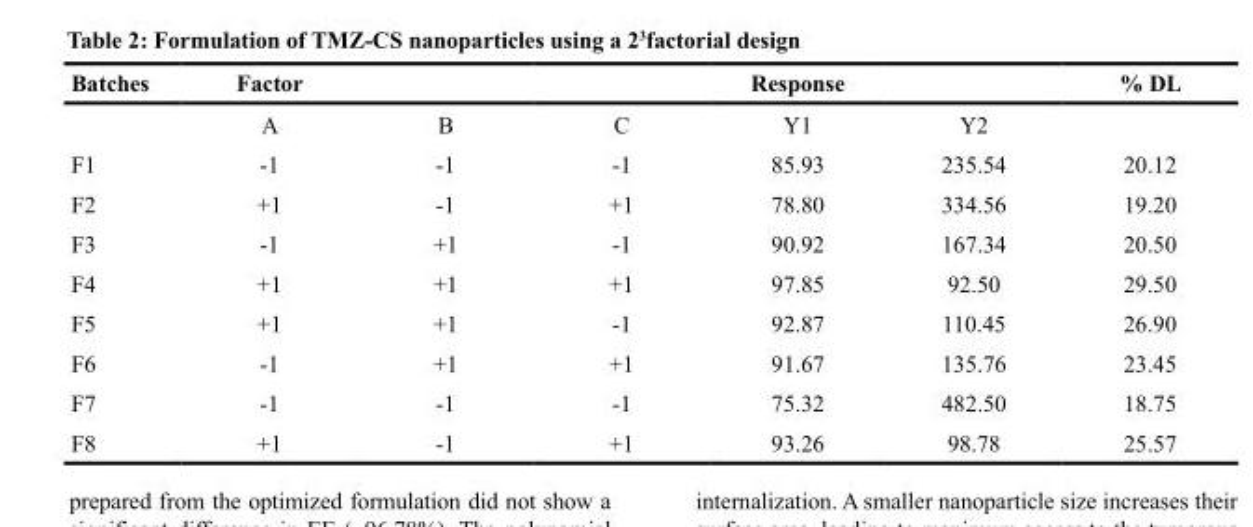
<table><thead><tr><td>Batches</td><td>Factor</td><td></td><td></td><td>Response</td><td></td><td>% DL</td></tr></thead><tbody><tr><td></td><td>A</td><td>B</td><td>C</td><td>Y1</td><td>Y2</td><td></td></tr><tr><td>F1</td><td>-1</td><td>-1</td><td>-1</td><td>85.93</td><td>235.54</td><td>20.12</td></tr><tr><td>F2</td><td>+1</td><td>-1</td><td>+1</td><td>78.80</td><td>334.56</td><td>19.20</td></tr><tr><td>F3</td><td>-1</td><td>+1</td><td>-1</td><td>90.92</td><td>167.34</td><td>20.50</td></tr><tr><td>F4</td><td>+1</td><td>+1</td><td>+1</td><td>97.85</td><td>92.50</td><td>29.50</td></tr><tr><td>F5</td><td>+1</td><td>+1</td><td>-1</td><td>92.87</td><td>110.45</td><td>26.90</td></tr><tr><td>F6</td><td>-1</td><td>+1</td><td>+1</td><td>91.67</td><td>135.76</td><td>23.45</td></tr><tr><td>F7</td><td>-1</td><td>-1</td><td>-1</td><td>75.32</td><td>482.50</td><td>18.75</td></tr><tr><td>F8</td><td>+1</td><td>-1</td><td>+1</td><td>93.26</td><td>98.78</td><td>25.57</td></tr></tbody></table>